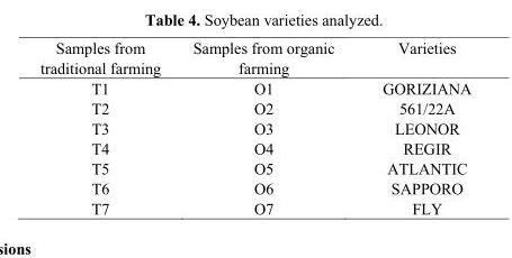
<table><tbody><tr><td>Samples from traditional farming</td><td>Samples from organic farming</td><td>Varieties</td></tr><tr><td>T1</td><td>O1</td><td>GORIZIANA</td></tr><tr><td>T2</td><td>O2</td><td>561/22A</td></tr><tr><td>T3</td><td>O3</td><td>LEONOR</td></tr><tr><td>T4</td><td>O4</td><td>REGIR</td></tr><tr><td>T5</td><td>O5</td><td>ATLANTIC</td></tr><tr><td>T6</td><td>O6</td><td>SAPPORO</td></tr><tr><td>T7</td><td>O7</td><td>FLY</td></tr></tbody></table>